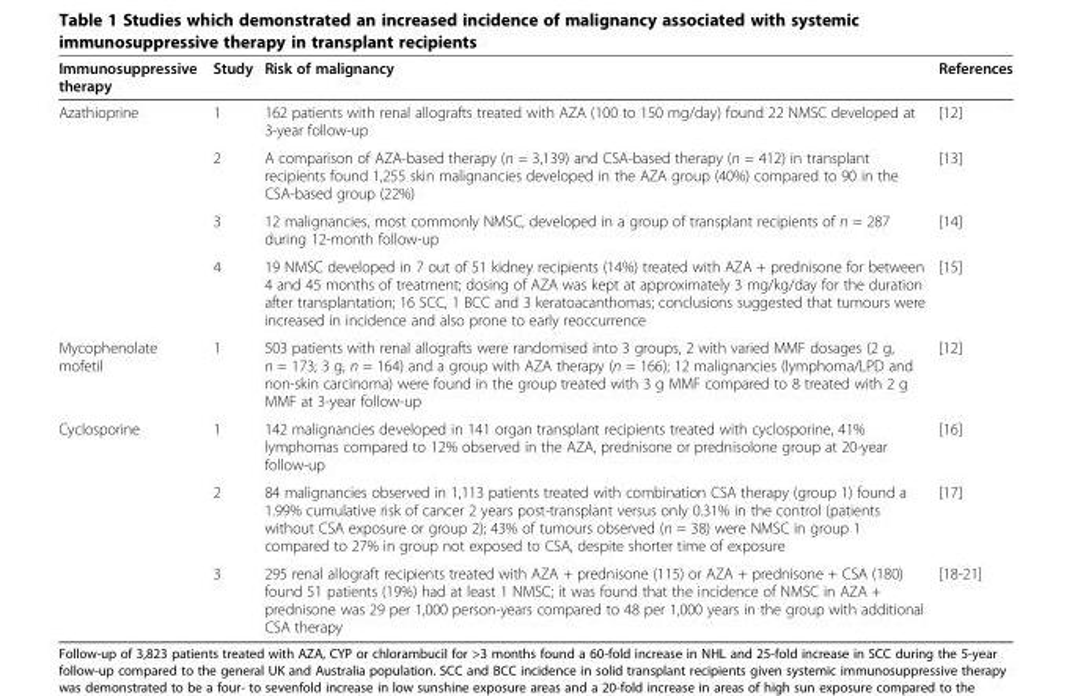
<table><thead><tr><td>Immunosuppressive therapy</td><td>Study</td><td>Risk of malignancy</td><td>References</td></tr></thead><tbody><tr><td rowspan="4">Azathioprine</td><td>1</td><td>162 patients with renal allografts treated with AZA (100 to 150 mg/day) found 22 NMSC developed at 3-year follow-up</td><td>[12]</td></tr><tr><td>2</td><td>A comparison of AZA-based therapy (n = 3,139) and CSA-based therapy (n = 412) in transplant recipients found 1,255 skin malignancies developed in the AZA group (40%) compared to 90 in the CSA-based group (22%)</td><td>[13]</td></tr><tr><td>3</td><td>12 malignancies, most commonly NMSC, developed in a group of transplant recipients of n = 287 during 12-month follow-up</td><td>[14]</td></tr><tr><td>4</td><td>19 NMSC developed in 7 out of 51 kidney recipients (14%) treated with AZA + prednisone for between 4 and 45 months of treatment; dosing of AZA was kept at approximately 3 mg/kg/day for the duration after transplantation; 16 SCC, 1 BCC and 3 keratoacanthomas; conclusions suggested that tumours were increased in incidence and also prone to early reoccurrence</td><td>[15]</td></tr><tr><td>Mycophenolate mofetil</td><td>1</td><td>503 patients with renal allografts were randomised into 3 groups, 2 with varied MMF dosages (2 g, n = 173; 3 g, n = 164) and a group with AZA therapy (n = 166); 12 malignancies (lymphoma/LPD and non-skin carcinoma) were found in the group treated with 3 g MMF compared to 8 treated with 2 g MMF at 3-year follow-up</td><td>[12]</td></tr><tr><td rowspan="3">Cyclosporine</td><td>1</td><td>142 malignancies developed in 141 organ transplant recipients treated with cyclosporine, 41% lymphomas compared to 12% observed in the AZA, prednisone or prednisolone group at 20-year follow-up</td><td>[16]</td></tr><tr><td>2</td><td>84 malignancies observed in 1,113 patients treated with combination CSA therapy (group 1) found a 1.99% cumulative risk of cancer 2 years post-transplant versus only 0.31% in the control (patients without CSA exposure or group 2); 43% of tumours observed (n = 38) were NMSC in group 1 compared to 27% in group not exposed to CSA, despite shorter time of exposure</td><td>[17]</td></tr><tr><td>3</td><td>295 renal allograft recipients treated with AZA + prednisone (115) or AZA + prednisone + CSA (180) found 51 patients (19%) had at least 1 NMSC; it was found that the incidence of NMSC in AZA + prednisone was 29 per 1,000 person-years compared to 48 per 1,000 years in the group with additional CSA therapy</td><td>[18-21]</td></tr></tbody></table>